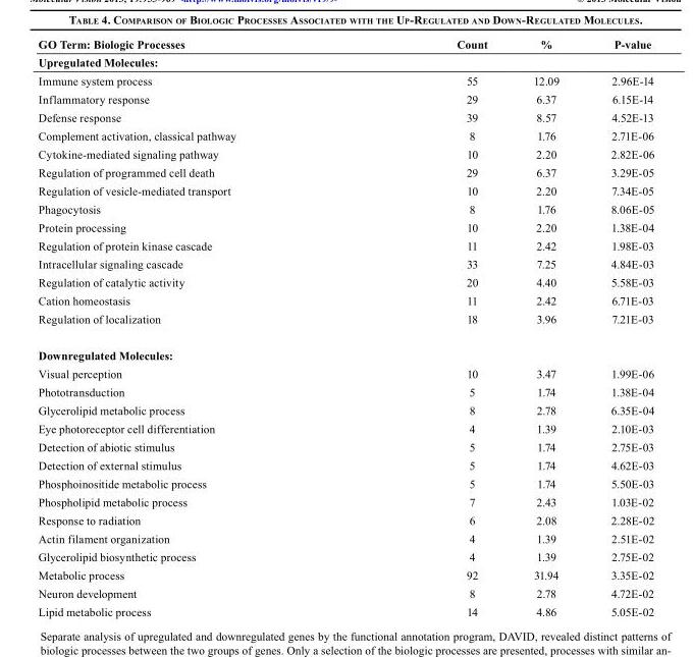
<table><thead><tr><td>GO Term: Biologic Processes</td><td>Count</td><td>%</td><td>P-value</td></tr><tr><td colspan="4">Upregulated Molecules:</td></tr></thead><tbody><tr><td>Immune system process</td><td>55</td><td>12.09</td><td>2.96E-14</td></tr><tr><td>Inflammatory response</td><td>29</td><td>6.37</td><td>6.15E-14</td></tr><tr><td>Defense response</td><td>39</td><td>8.57</td><td>4.52E-13</td></tr><tr><td>Complement activation, classical pathway</td><td>8</td><td>1.76</td><td>2.71E-06</td></tr><tr><td>Cytokine-mediated signaling pathway</td><td>10</td><td>2.20</td><td>2.82E-06</td></tr><tr><td>Regulation of programmed cell death</td><td>29</td><td>6.37</td><td>3.29E-05</td></tr><tr><td>Regulation of vesicle-mediated transport</td><td>10</td><td>2.20</td><td>7.34E-05</td></tr><tr><td>Phagocytosis</td><td>8</td><td>1.76</td><td>8.06E-05</td></tr><tr><td>Protein processing</td><td>10</td><td>2.20</td><td>1.38E-04</td></tr><tr><td>Regulation of protein kinase cascade</td><td>11</td><td>2.42</td><td>1.98E-03</td></tr><tr><td>Intracellular signaling cascade</td><td>33</td><td>7.25</td><td>4.84E-03</td></tr><tr><td>Regulation of catalytic activity</td><td>20</td><td>4.40</td><td>5.58E-03</td></tr><tr><td>Cation homeostasis</td><td>11</td><td>2.42</td><td>6.71E-03</td></tr><tr><td>Regulation of localization</td><td>18</td><td>3.96</td><td>7.21E-03</td></tr><tr><td colspan="4">Downregulated Molecules:</td></tr><tr><td>Visual perception</td><td>10</td><td>3.47</td><td>1.99E-06</td></tr><tr><td>Phototransduction</td><td>5</td><td>1.74</td><td>1.38E-04</td></tr><tr><td>Glycerolipid metabolic process</td><td>8</td><td>2.78</td><td>6.35E-04</td></tr><tr><td>Eye photoreceptor cell differentiation</td><td>4</td><td>1.39</td><td>2.10E-03</td></tr><tr><td>Detection of abiotic stimulus</td><td>5</td><td>1.74</td><td>2.75E-03</td></tr><tr><td>Detection of external stimulus</td><td>5</td><td>1.74</td><td>4.62E-03</td></tr><tr><td>Phosphoinositide metabolic process</td><td>5</td><td>1.74</td><td>5.50E-03</td></tr><tr><td>Phospholipid metabolic process</td><td>7</td><td>2.43</td><td>1.03E-02</td></tr><tr><td>Response to radiation</td><td>6</td><td>2.08</td><td>2.28E-02</td></tr><tr><td>Actin filament organization</td><td>4</td><td>1.39</td><td>2.51E-02</td></tr><tr><td>Glycerolipid biosynthetic process</td><td>4</td><td>1.39</td><td>2.75E-02</td></tr><tr><td>Metabolic process</td><td>92</td><td>31.94</td><td>3.35E-02</td></tr><tr><td>Neuron development</td><td>8</td><td>2.78</td><td>4.72E-02</td></tr><tr><td>Lipid metabolic process</td><td>14</td><td>4.86</td><td>5.05E-02</td></tr></tbody></table>